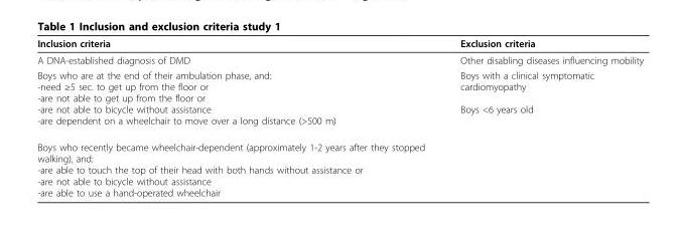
<table><thead><tr><td>Inclusion criteria</td><td>Exclusion criteria</td></tr></thead><tbody><tr><td>A DNA-established diagnosis of DMD</td><td>Other disabling diseases influencing mobility</td></tr><tr><td>Boys who are at the end of their ambulation phase, and: -need ≥5 sec. to get up from the floor or -are not able to get up from the floor or -are not able to bicycle without assistance -are dependent on a wheelchair to move over a long distance (&gt;500 m)</td><td>Boys with a clinical symptomatic cardiomyopathy Boys &lt;6 years old</td></tr><tr><td>Boys who recently became wheelchair-dependent (approximately 1-2 years after they stopped walking), and: -are able to touch the top of their head with both hands without assistance or -are not able to bicycle without assistance -are able to use a hand-operated wheelchair</td><td></td></tr></tbody></table>